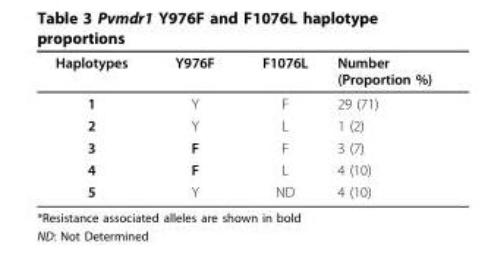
<table><thead><tr><td>Haplotypes</td><td>Y976F</td><td>F1076L</td><td>Number (Proportion %)</td></tr></thead><tbody><tr><td>1</td><td>Y</td><td>F</td><td>29 (71)</td></tr><tr><td>2</td><td>Y</td><td>L</td><td>1 (2)</td></tr><tr><td>3</td><td>F</td><td>F</td><td>3 (7)</td></tr><tr><td>4</td><td>F</td><td>L</td><td>4 (10)</td></tr><tr><td>5</td><td>Y</td><td>ND</td><td>4 (10)</td></tr></tbody></table>